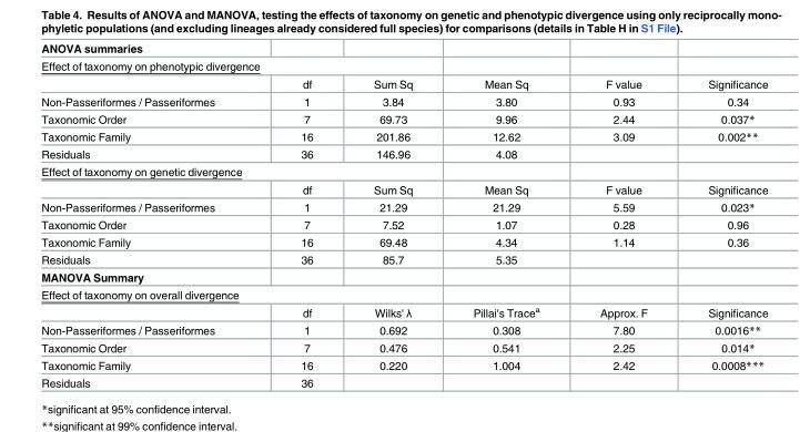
<table><tbody><tr><td colspan="6">ANOVA summaries</td></tr><tr><td colspan="6">Effect of taxonomy on phenotypic divergence</td></tr><tr><td></td><td>df</td><td>Sum Sq</td><td>Mean Sq</td><td>F value</td><td>Significance</td></tr><tr><td>Non-Passeriformes / Passeriformes</td><td>1</td><td>3.84</td><td>3.80</td><td>0.93</td><td>0.34</td></tr><tr><td>Taxonomic Order</td><td>7</td><td>69.73</td><td>9.96</td><td>2.44</td><td>0.037*</td></tr><tr><td>Taxonomic Family</td><td>16</td><td>201.86</td><td>12.62</td><td>3.09</td><td>0.002**</td></tr><tr><td>Residuals</td><td>36</td><td>146.96</td><td>4.08</td><td></td><td></td></tr><tr><td colspan="6">Effect of taxonomy on genetic divergence</td></tr><tr><td></td><td>df</td><td>Sum Sq</td><td>Mean Sq</td><td>F value</td><td>Significance</td></tr><tr><td>Non-Passeriformes / Passeriformes</td><td>1</td><td>21.29</td><td>21.29</td><td>5.59</td><td>0.023*</td></tr><tr><td>Taxonomic Order</td><td>7</td><td>7.52</td><td>1.07</td><td>0.28</td><td>0.96</td></tr><tr><td>Taxonomic Family</td><td>16</td><td>69.48</td><td>4.34</td><td>1.14</td><td>0.36</td></tr><tr><td>Residuals</td><td>36</td><td>85.7</td><td>5.35</td><td></td><td></td></tr><tr><td colspan="6">MANOVA Summary</td></tr><tr><td colspan="6">Effect of taxonomy on overall divergence</td></tr><tr><td></td><td>df</td><td>Wilks&#x27; λ</td><td>Pillai&#x27;s Trace<sup>a</sup></td><td>Approx. F</td><td>Significance</td></tr><tr><td>Non-Passeriformes / Passeriformes</td><td>1</td><td>0.692</td><td>0.308</td><td>7.80</td><td>0.0016**</td></tr><tr><td>Taxonomic Order</td><td>7</td><td>0.476</td><td>0.541</td><td>2.25</td><td>0.014*</td></tr><tr><td>Taxonomic Family</td><td>16</td><td>0.220</td><td>1.004</td><td>2.42</td><td>0.0008***</td></tr><tr><td>Residuals</td><td>36</td><td></td><td></td><td></td><td></td></tr></tbody></table>